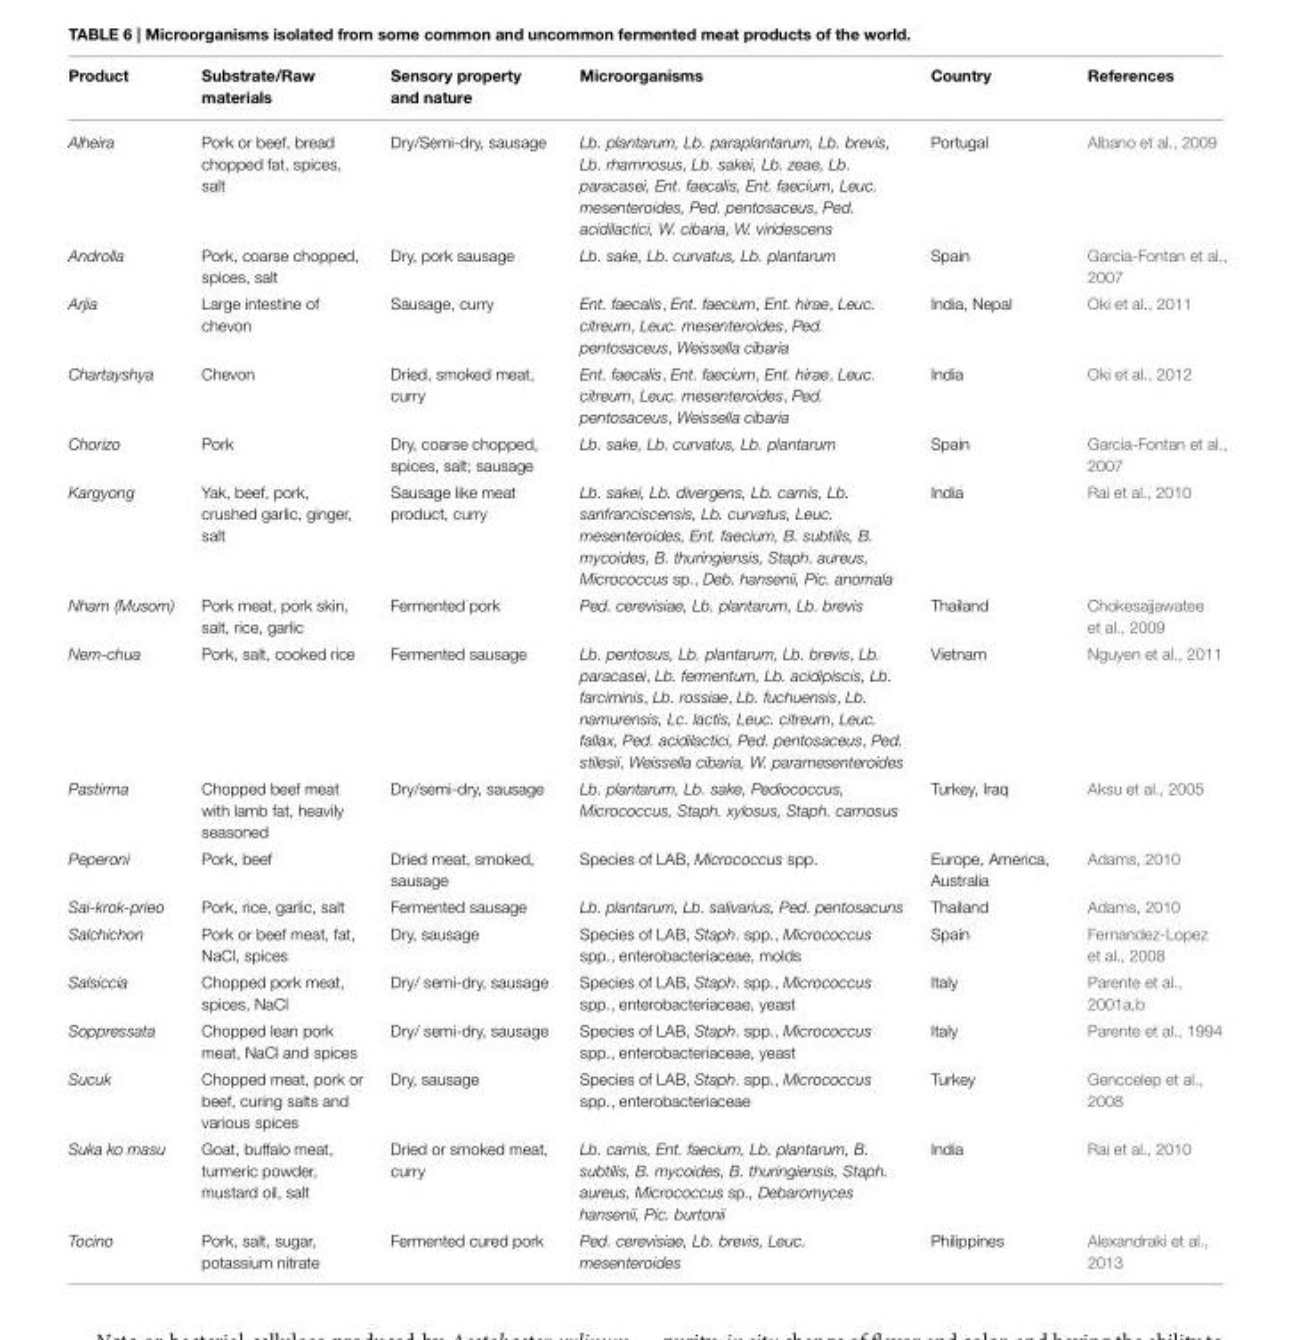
<table><thead><tr><td>Product</td><td>Substrate/Raw materials</td><td>Sensory property and nature</td><td>Microorganisms</td><td>Country</td><td>References</td></tr></thead><tbody><tr><td>Alheira</td><td>Pork or beef, bread chopped fat, spices, salt</td><td>Dry/Semi-dry, sausage</td><td>Lb. plantarum, Lb. paraplantarum, Lb. brevis, Lb. rhamnosus, Lb. sakei, Lb. zeae, Lb. paracasei, Ent. faecalis, Ent. faecium, Leuc. mesenteroides, Ped. pentosaceus, Ped. acidilactici, W. cibaria, W. viridescens</td><td>Portugal</td><td>Albano et al., 2009</td></tr><tr><td>Androlla</td><td>Pork, coarse chopped, spices, salt</td><td>Dry, pork sausage</td><td>Lb. sake, Lb. curvatus, Lb. plantarum</td><td>Spain</td><td>Garcia-Fontan et al., 2007</td></tr><tr><td>Arjia</td><td>Large intestine of chevon</td><td>Sausage, curry</td><td>Ent. faecalis, Ent. faecium, Ent. hirae, Leuc. citreum, Leuc. mesenteroides, Ped. pentosaceus, Weissella cibaria</td><td>India, Nepal</td><td>Oki et al., 2011</td></tr><tr><td>Chartayshya</td><td>Chevon</td><td>Dried, smoked meat, curry</td><td>Ent. faecalis, Ent. faecium, Ent. hirae, Leuc. citreum, Leuc. mesenteroides, Ped. pentosaceus, Weissella cibaria</td><td>India</td><td>Oki et al., 2012</td></tr><tr><td>Chorizo</td><td>Pork</td><td>Dry, coarse chopped, spices, salt; sausage</td><td>Lb. sake, Lb. curvatus, Lb. plantarum</td><td>Spain</td><td>Garcia-Fontan et al., 2007</td></tr><tr><td>Kargyong</td><td>Yak, beef, pork, crushed garlic, ginger, salt</td><td>Sausage like meat product, curry</td><td>Lb. sakei, Lb. divergens, Lb. carnis, Lb. sanfranciscensis, Lb. curvatus, Leuc. mesenteroides, Ent. faecium, B. subtilis, B. mycoides, B. thuringiensis, Staph. aureus, Micrococcus sp., Deb. hansenii, Pic. anomala</td><td>India</td><td>Rai et al., 2010</td></tr><tr><td>Nham (Musom)</td><td>Pork meat, pork skin, salt, rice, garlic</td><td>Fermented pork</td><td>Ped. cerevisiae, Lb. plantarum, Lb. brevis</td><td>Thailand</td><td>Chokesajjawatee et al., 2009</td></tr><tr><td>Nem-chua</td><td>Pork, salt, cooked rice</td><td>Fermented sausage</td><td>Lb. pentosus, Lb. plantarum, Lb. brevis, Lb. paracasei, Lb. fermentum, Lb. acidipiscis, Lb. farciminis, Lb. rossiae, Lb. fuchuensis, Lb. namurensis, Lc. lactis, Leuc. citreum, Leuc. fallax, Ped. acidilactici, Ped. pentosaceus, Ped. stilesii, Weissella cibaria, W. paramesenteroides</td><td>Vietnam</td><td>Nguyen et al., 2011</td></tr><tr><td>Pastirma</td><td>Chopped beef meat with lamb fat, heavily seasoned</td><td>Dry/semi-dry, sausage</td><td>Lb. plantarum, Lb. sake, Pediococcus, Micrococcus, Staph. xylosus, Staph. carnosus</td><td>Turkey, Iraq</td><td>Aksu et al., 2005</td></tr><tr><td>Peperoni</td><td>Pork, beef</td><td>Dried meat, smoked, sausage</td><td>Species of LAB, Micrococcus spp.</td><td>Europe, America, Australia</td><td>Adams, 2010</td></tr><tr><td>Sai-krok-prieo</td><td>Pork, rice, garlic, salt</td><td>Fermented sausage</td><td>Lb. plantarum, Lb. salivarius, Ped. pentosacuns</td><td>Thailand</td><td>Adams, 2010</td></tr><tr><td>Salchichon</td><td>Pork or beef meat, fat, NaCl, spices</td><td>Dry, sausage</td><td>Species of LAB, Staph. spp., Micrococcus spp., enterobacteriaceae, molds</td><td>Spain</td><td>Fernandez-Lopez et al., 2008</td></tr><tr><td>Salsiccia</td><td>Chopped pork meat, spices, NaCl</td><td>Dry/ semi-dry, sausage</td><td>Species of LAB, Staph. spp., Micrococcus spp., enterobacteriaceae, yeast</td><td>Italy</td><td>Parente et al., 2001a,b</td></tr><tr><td>Soppressata</td><td>Chopped lean pork meat, NaCl and spices</td><td>Dry/ semi-dry, sausage</td><td>Species of LAB, Staph. spp., Micrococcus spp., enterobacteriaceae, yeast</td><td>Italy</td><td>Parente et al., 1994</td></tr><tr><td>Sucuk</td><td>Chopped meat, pork or beef, curing salts and various spices</td><td>Dry, sausage</td><td>Species of LAB, Staph. spp., Micrococcus spp., enterobacteriaceae</td><td>Turkey</td><td>Genccelep et al., 2008</td></tr><tr><td>Suka ko masu</td><td>Goat, buffalo meat, turmeric powder, mustard oil, salt</td><td>Dried or smoked meat, curry</td><td>Lb. carnis, Ent. faecium, Lb. plantarum, B. subtilis, B. mycoides, B. thuringiensis, Staph. aureus, Micrococcus sp., Debaromyces hansenii, Pic. burtonii</td><td>India</td><td>Rai et al., 2010</td></tr><tr><td>Tocino</td><td>Pork, salt, sugar, potassium nitrate</td><td>Fermented cured pork</td><td>Ped. cerevisiae, Lb. brevis, Leuc. mesenteroides</td><td>Philippines</td><td>Alexandraki et al., 2013</td></tr></tbody></table>